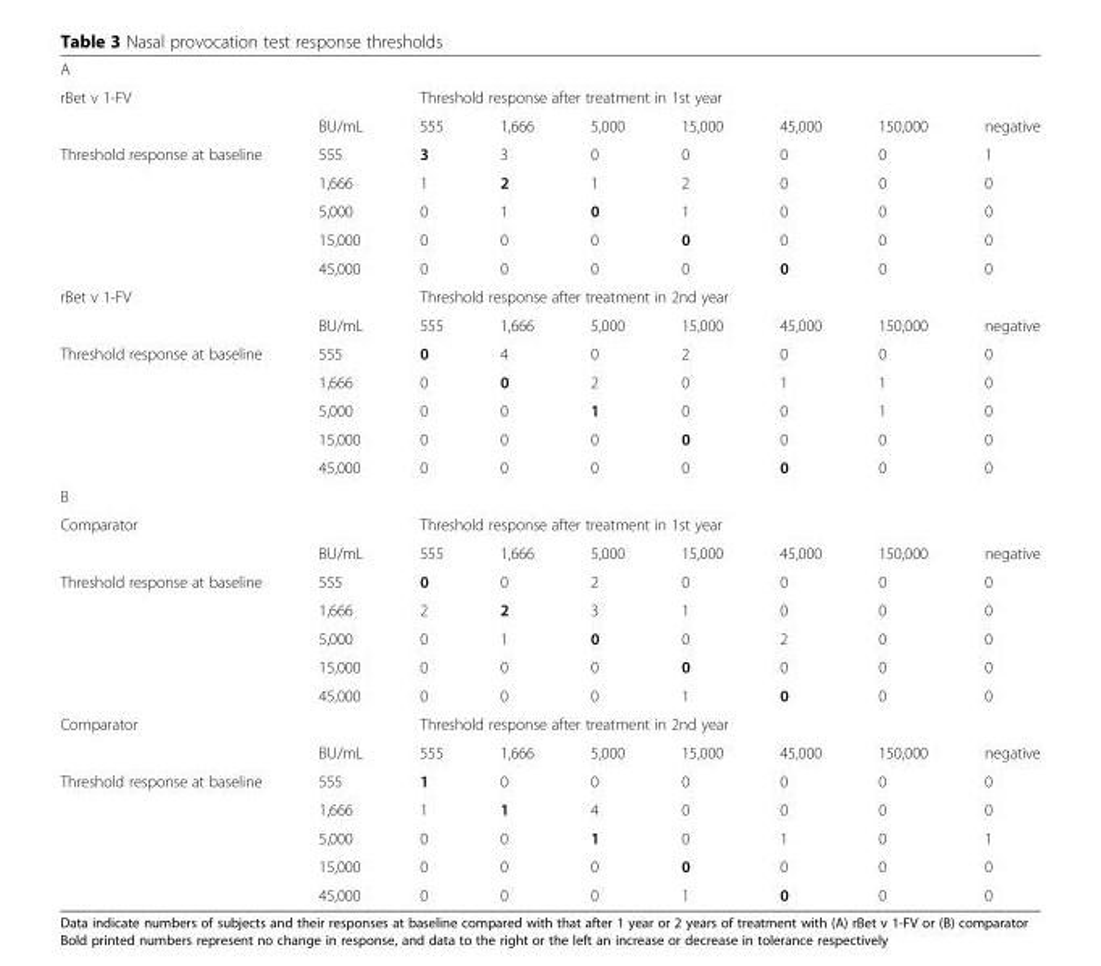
<table><tbody><tr><td colspan="9">A</td></tr><tr><td colspan="2">rBet v 1-FV</td><td colspan="7">Threshold response after treatment in 1st year</td></tr><tr><td></td><td>BU/mL</td><td>555</td><td>1,666</td><td>5,000</td><td>15,000</td><td>45,000</td><td>150,000</td><td>negative</td></tr><tr><td rowspan="5">Threshold response at baseline</td><td>555</td><td>3</td><td>3</td><td>0</td><td>0</td><td>0</td><td>0</td><td>1</td></tr><tr><td>1,666</td><td>1</td><td>2</td><td>1</td><td>2</td><td>0</td><td>0</td><td>0</td></tr><tr><td>5,000</td><td>0</td><td>1</td><td>0</td><td>1</td><td>0</td><td>0</td><td>0</td></tr><tr><td>15,000</td><td>0</td><td>0</td><td>0</td><td>0</td><td>0</td><td>0</td><td>0</td></tr><tr><td>45,000</td><td>0</td><td>0</td><td>0</td><td>0</td><td>0</td><td>0</td><td>0</td></tr><tr><td colspan="2">rBet v 1-FV</td><td colspan="7">Threshold response after treatment in 2nd year</td></tr><tr><td></td><td>BU/mL</td><td>555</td><td>1,666</td><td>5,000</td><td>15,000</td><td>45,000</td><td>150,000</td><td>negative</td></tr><tr><td rowspan="5">Threshold response at baseline</td><td>555</td><td>0</td><td>4</td><td>0</td><td>2</td><td>0</td><td>0</td><td>0</td></tr><tr><td>1,666</td><td>0</td><td>0</td><td>2</td><td>0</td><td>1</td><td>1</td><td>0</td></tr><tr><td>5,000</td><td>0</td><td>0</td><td>1</td><td>0</td><td>0</td><td>1</td><td>0</td></tr><tr><td>15,000</td><td>0</td><td>0</td><td>0</td><td>0</td><td>0</td><td>0</td><td>0</td></tr><tr><td>45,000</td><td>0</td><td>0</td><td>0</td><td>0</td><td>0</td><td>0</td><td>0</td></tr><tr><td colspan="9">B</td></tr><tr><td colspan="2">Comparator</td><td colspan="7">Threshold response after treatment in 1st year</td></tr><tr><td></td><td>BU/mL</td><td>555</td><td>1,666</td><td>5,000</td><td>15,000</td><td>45,000</td><td>150,000</td><td>negative</td></tr><tr><td rowspan="5">Threshold response at baseline</td><td>555</td><td>0</td><td>0</td><td>2</td><td>0</td><td>0</td><td>0</td><td>0</td></tr><tr><td>1,666</td><td>2</td><td>2</td><td>3</td><td>1</td><td>0</td><td>0</td><td>0</td></tr><tr><td>5,000</td><td>0</td><td>1</td><td>0</td><td>0</td><td>2</td><td>0</td><td>0</td></tr><tr><td>15,000</td><td>0</td><td>0</td><td>0</td><td>0</td><td>0</td><td>0</td><td>0</td></tr><tr><td>45,000</td><td>0</td><td>0</td><td>0</td><td>1</td><td>0</td><td>0</td><td>0</td></tr><tr><td colspan="2">Comparator</td><td colspan="7">Threshold response after treatment in 2nd year</td></tr><tr><td></td><td>BU/mL</td><td>555</td><td>1,666</td><td>5,000</td><td>15,000</td><td>45,000</td><td>150,000</td><td>negative</td></tr><tr><td rowspan="5">Threshold response at baseline</td><td>555</td><td>1</td><td>0</td><td>0</td><td>0</td><td>0</td><td>0</td><td>0</td></tr><tr><td>1,666</td><td>1</td><td>1</td><td>4</td><td>0</td><td>0</td><td>0</td><td>0</td></tr><tr><td>5,000</td><td>0</td><td>0</td><td>1</td><td>0</td><td>1</td><td>0</td><td>1</td></tr><tr><td>15,000</td><td>0</td><td>0</td><td>0</td><td>0</td><td>0</td><td>0</td><td>0</td></tr><tr><td>45,000</td><td>0</td><td>0</td><td>0</td><td>1</td><td>0</td><td>0</td><td>0</td></tr></tbody></table>